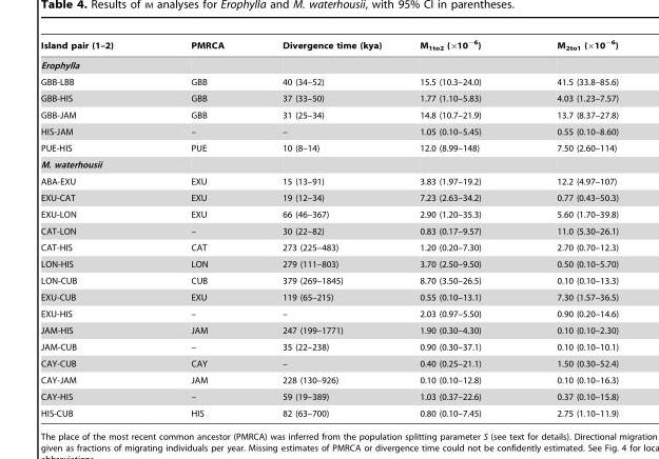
<table><thead><tr><td>Island pair (1–2)</td><td>PMRCA</td><td>Divergence time (kya)</td><td>M<sub>1to2</sub> (×10<sup>−6</sup>)</td><td>M<sub>2to1</sub> (×10<sup>−6</sup>)</td></tr></thead><tbody><tr><td colspan="5">Erophylla</td></tr><tr><td>GBB-LBB</td><td>GBB</td><td>40 (34–52)</td><td>15.5 (10.3–24.0)</td><td>41.5 (33.8–85.6)</td></tr><tr><td>GBB-HIS</td><td>GBB</td><td>37 (33–50)</td><td>1.77 (1.10–5.83)</td><td>4.03 (1.23–7.57)</td></tr><tr><td>GBB-JAM</td><td>GBB</td><td>31 (25–34)</td><td>14.8 (10.7–21.9)</td><td>13.7 (8.37–27.8)</td></tr><tr><td>HIS-JAM</td><td>–</td><td>–</td><td>1.05 (0.10–5.45)</td><td>0.55 (0.10–8.60)</td></tr><tr><td>PUE-HIS</td><td>PUE</td><td>10 (8–14)</td><td>12.0 (8.99–148)</td><td>7.50 (2.60–114)</td></tr><tr><td colspan="5">M. waterhousii</td></tr><tr><td>ABA-EXU</td><td>EXU</td><td>15 (13–91)</td><td>3.83 (1.97–19.2)</td><td>12.2 (4.97–107)</td></tr><tr><td>EXU-CAT</td><td>EXU</td><td>19 (12–34)</td><td>7.23 (2.63–34.2)</td><td>0.77 (0.43–50.3)</td></tr><tr><td>EXU-LON</td><td>EXU</td><td>66 (46–367)</td><td>2.90 (1.20–35.3)</td><td>5.60 (1.70–39.8)</td></tr><tr><td>CAT-LON</td><td>–</td><td>30 (22–82)</td><td>0.83 (0.17–9.57)</td><td>11.0 (5.30–26.1)</td></tr><tr><td>CAT-HIS</td><td>CAT</td><td>273 (225–483)</td><td>1.20 (0.20–7.30)</td><td>2.70 (0.70–12.3)</td></tr><tr><td>LON-HIS</td><td>LON</td><td>279 (111–803)</td><td>3.70 (2.50–9.50)</td><td>0.50 (0.10–5.70)</td></tr><tr><td>LON-CUB</td><td>CUB</td><td>379 (269–1845)</td><td>8.70 (3.50–26.5)</td><td>0.10 (0.10–13.3)</td></tr><tr><td>EXU-CUB</td><td>EXU</td><td>119 (65–215)</td><td>0.55 (0.10–13.1)</td><td>7.30 (1.57–36.5)</td></tr><tr><td>EXU-HIS</td><td>–</td><td>–</td><td>2.03 (0.97–5.50)</td><td>0.90 (0.20–14.6)</td></tr><tr><td>JAM-HIS</td><td>JAM</td><td>247 (199–1771)</td><td>1.90 (0.30–4.30)</td><td>0.10 (0.10–2.30)</td></tr><tr><td>JAM-CUB</td><td>–</td><td>35 (22–238)</td><td>0.90 (0.30–37.1)</td><td>0.10 (0.10–10.1)</td></tr><tr><td>CAY-CUB</td><td>CAY</td><td>–</td><td>0.40 (0.25–21.1)</td><td>1.50 (0.30–52.4)</td></tr><tr><td>CAY-JAM</td><td>JAM</td><td>228 (130–926)</td><td>0.10 (0.10–12.8)</td><td>0.10 (0.10–16.3)</td></tr><tr><td>CAY-HIS</td><td>–</td><td>59 (19–389)</td><td>1.03 (0.37–22.6)</td><td>0.37 (0.10–15.8)</td></tr><tr><td>HIS-CUB</td><td>HIS</td><td>82 (63–700)</td><td>0.80 (0.10–7.45)</td><td>2.75 (1.10–11.9)</td></tr></tbody></table>